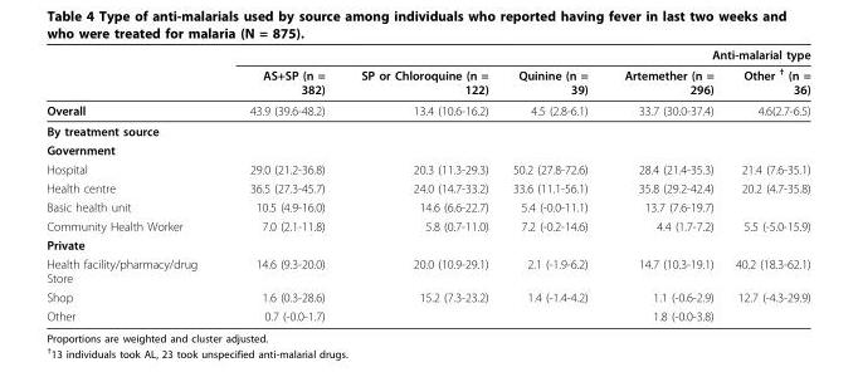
<table><thead><tr><td rowspan="2"></td><td colspan="5">Anti-malarial type</td></tr><tr><td>AS+SP (n = 382)</td><td>SP or Chloroquine (n = 122)</td><td>Quinine (n = 39)</td><td>Artemether (n = 296)</td><td>Other <sup>†</sup> (n = 36)</td></tr></thead><tbody><tr><td>Overall</td><td>43.9 (39.6-48.2)</td><td>13.4 (10.6-16.2)</td><td>4.5 (2.8-6.1)</td><td>33.7 (30.0-37.4)</td><td>4.6(2.7-6.5)</td></tr><tr><td colspan="6">By treatment source</td></tr><tr><td colspan="6">Government</td></tr><tr><td>Hospital</td><td>29.0 (21.2-36.8)</td><td>20.3 (11.3-29.3)</td><td>50.2 (27.8-72.6)</td><td>28.4 (21.4-35.3)</td><td>21.4 (7.6-35.1)</td></tr><tr><td>Health centre</td><td>36.5 (27.3-45.7)</td><td>24.0 (14.7-33.2)</td><td>33.6 (11.1-56.1)</td><td>35.8 (29.2-42.4)</td><td>20.2 (4.7-35.8)</td></tr><tr><td>Basic health unit</td><td>10.5 (4.9-16.0)</td><td>14.6 (6.6-22.7)</td><td>5.4 (-0.0-11.1)</td><td>13.7 (7.6-19.7)</td><td></td></tr><tr><td>Community Health Worker</td><td>7.0 (2.1-11.8)</td><td>5.8 (0.7-11.0)</td><td>7.2 (-0.2-14.6)</td><td>4.4 (1.7-7.2)</td><td>5.5 (-5.0-15.9)</td></tr><tr><td colspan="6">Private</td></tr><tr><td>Health facility/pharmacy/drug Store</td><td>14.6 (9.3-20.0)</td><td>20.0 (10.9-29.1)</td><td>2.1 (-1.9-6.2)</td><td>14.7 (10.3-19.1)</td><td>40.2 (18.3-62.1)</td></tr><tr><td>Shop</td><td>1.6 (0.3-28.6)</td><td>15.2 (7.3-23.2)</td><td>1.4 (-1.4-4.2)</td><td>1.1 (-0.6-2.9)</td><td>12.7 (-4.3-29.9)</td></tr><tr><td>Other</td><td>0.7 (-0.0-1.7)</td><td></td><td></td><td>1.8 (-0.0-3.8)</td><td></td></tr></tbody></table>